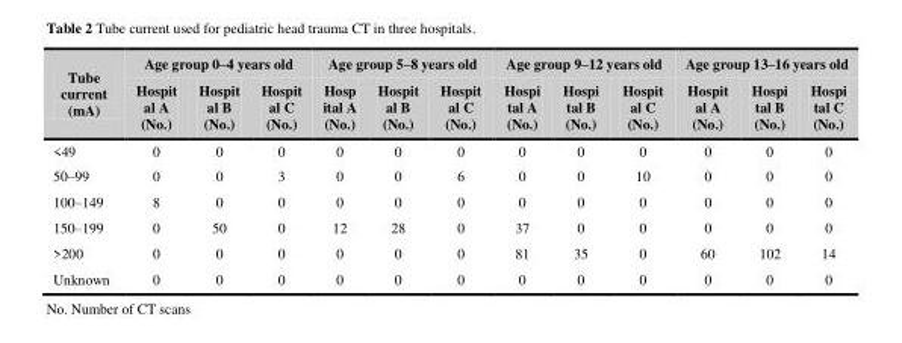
<table><thead><tr><td rowspan="2">Tube current (mA)</td><td colspan="3">Age group 0–4 years old</td><td colspan="3">Age group 5–8 years old</td><td colspan="3">Age group 9–12 years old</td><td colspan="3">Age group 13–16 years old</td></tr><tr><td>Hospit al A (No.)</td><td>Hospit al B (No.)</td><td>Hospit al C (No.)</td><td>Hosp ital A (No.)</td><td>Hospit al B (No.)</td><td>Hospit al C (No.)</td><td>Hospi tal A (No.)</td><td>Hospi tal B (No.)</td><td>Hospit al C (No.)</td><td>Hospit al A (No.)</td><td>Hospi tal B (No.)</td><td>Hospi tal C (No.)</td></tr></thead><tbody><tr><td>&lt;49</td><td>0</td><td>0</td><td>0</td><td>0</td><td>0</td><td>0</td><td>0</td><td>0</td><td>0</td><td>0</td><td>0</td><td>0</td></tr><tr><td>50–99</td><td>0</td><td>0</td><td>3</td><td>0</td><td>0</td><td>6</td><td>0</td><td>0</td><td>10</td><td>0</td><td>0</td><td>0</td></tr><tr><td>100–149</td><td>8</td><td>0</td><td>0</td><td>0</td><td>0</td><td>0</td><td>0</td><td>0</td><td>0</td><td>0</td><td>0</td><td>0</td></tr><tr><td>150–199</td><td>0</td><td>50</td><td>0</td><td>12</td><td>28</td><td>0</td><td>37</td><td>0</td><td>0</td><td>0</td><td>0</td><td>0</td></tr><tr><td>&gt;200</td><td>0</td><td>0</td><td>0</td><td>0</td><td>0</td><td>0</td><td>81</td><td>35</td><td>0</td><td>60</td><td>102</td><td>14</td></tr><tr><td>Unknown</td><td>0</td><td>0</td><td>0</td><td>0</td><td>0</td><td>0</td><td>0</td><td>0</td><td>0</td><td>0</td><td>0</td><td>0</td></tr></tbody></table>